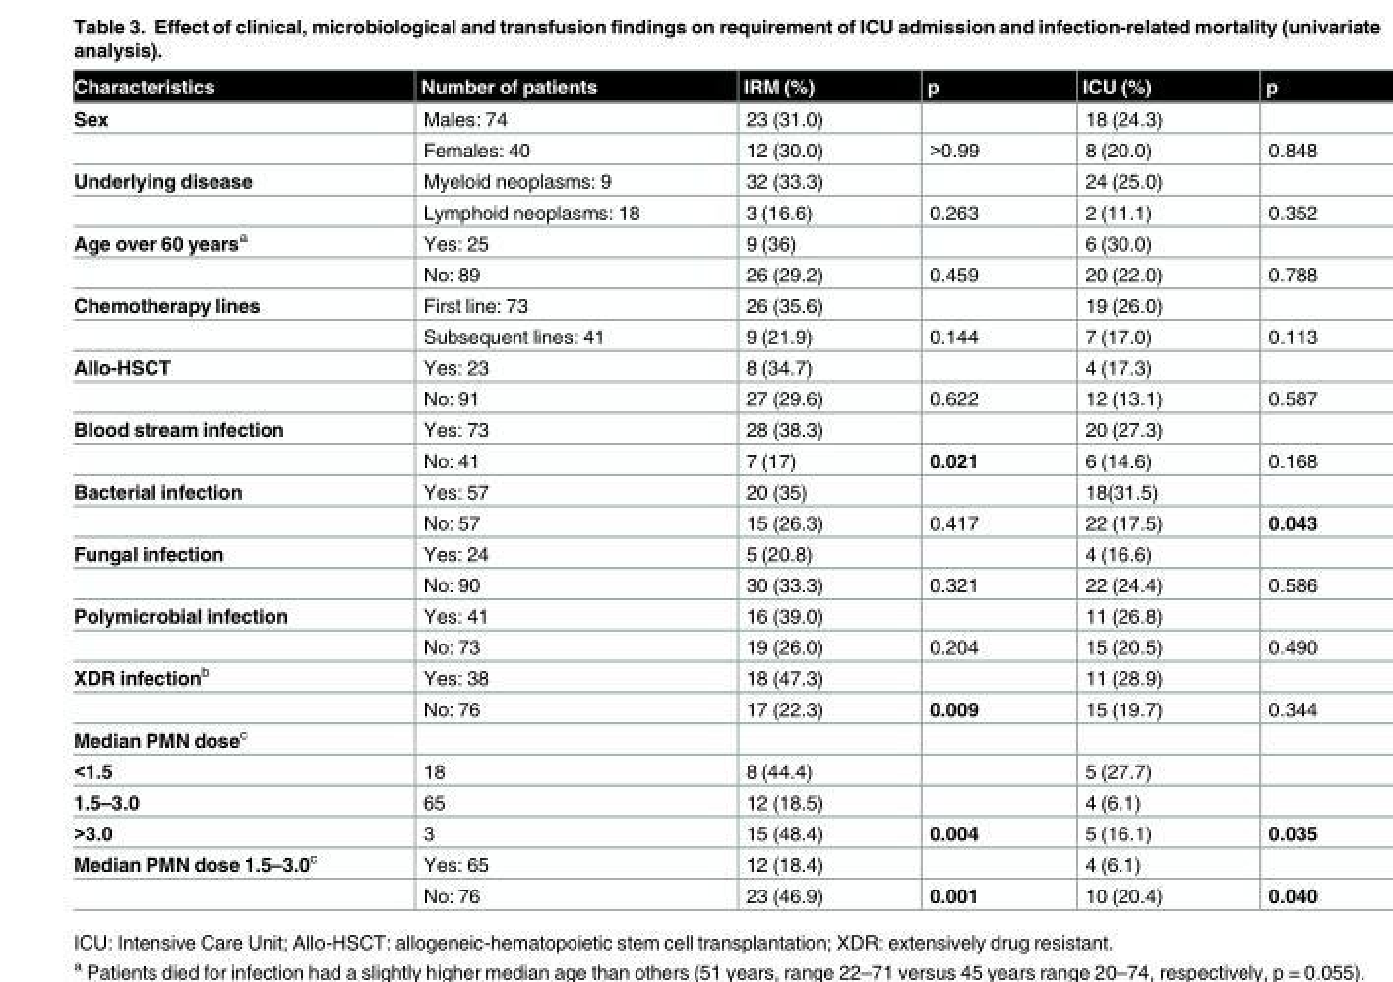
<table><thead><tr><td>Characteristics</td><td>Number of patients</td><td>IRM (%)</td><td>p</td><td>ICU (%)</td><td>p</td></tr></thead><tbody><tr><td rowspan="2">Sex</td><td>Males: 74</td><td>23 (31.0)</td><td></td><td>18 (24.3)</td><td></td></tr><tr><td>Females: 40</td><td>12 (30.0)</td><td>&gt;0.99</td><td>8 (20.0)</td><td>0.848</td></tr><tr><td rowspan="2">Underlying disease</td><td>Myeloid neoplasms: 9</td><td>32 (33.3)</td><td></td><td>24 (25.0)</td><td></td></tr><tr><td>Lymphoid neoplasms: 18</td><td>3 (16.6)</td><td>0.263</td><td>2 (11.1)</td><td>0.352</td></tr><tr><td rowspan="2">Age over 60 years<sup>a</sup></td><td>Yes: 25</td><td>9 (36)</td><td></td><td>6 (30.0)</td><td></td></tr><tr><td>No: 89</td><td>26 (29.2)</td><td>0.459</td><td>20 (22.0)</td><td>0.788</td></tr><tr><td rowspan="2">Chemotherapy lines</td><td>First line: 73</td><td>26 (35.6)</td><td></td><td>19 (26.0)</td><td></td></tr><tr><td>Subsequent lines: 41</td><td>9 (21.9)</td><td>0.144</td><td>7 (17.0)</td><td>0.113</td></tr><tr><td rowspan="2">Allo-HSCT</td><td>Yes: 23</td><td>8 (34.7)</td><td></td><td>4 (17.3)</td><td></td></tr><tr><td>No: 91</td><td>27 (29.6)</td><td>0.622</td><td>12 (13.1)</td><td>0.587</td></tr><tr><td rowspan="2">Blood stream infection</td><td>Yes: 73</td><td>28 (38.3)</td><td></td><td>20 (27.3)</td><td></td></tr><tr><td>No: 41</td><td>7 (17)</td><td>0.021</td><td>6 (14.6)</td><td>0.168</td></tr><tr><td rowspan="2">Bacterial infection</td><td>Yes: 57</td><td>20 (35)</td><td></td><td>18(31.5)</td><td></td></tr><tr><td>No: 57</td><td>15 (26.3)</td><td>0.417</td><td>22 (17.5)</td><td>0.043</td></tr><tr><td rowspan="2">Fungal infection</td><td>Yes: 24</td><td>5 (20.8)</td><td></td><td>4 (16.6)</td><td></td></tr><tr><td>No: 90</td><td>30 (33.3)</td><td>0.321</td><td>22 (24.4)</td><td>0.586</td></tr><tr><td rowspan="2">Polymicrobial infection</td><td>Yes: 41</td><td>16 (39.0)</td><td></td><td>11 (26.8)</td><td></td></tr><tr><td>No: 73</td><td>19 (26.0)</td><td>0.204</td><td>15 (20.5)</td><td>0.490</td></tr><tr><td rowspan="2">XDR infection<sup>b</sup></td><td>Yes: 38</td><td>18 (47.3)</td><td></td><td>11 (28.9)</td><td></td></tr><tr><td>No: 76</td><td>17 (22.3)</td><td>0.009</td><td>15 (19.7)</td><td>0.344</td></tr><tr><td colspan="6">Median PMN dose<sup>c</sup></td></tr><tr><td>&lt;1.5</td><td>18</td><td>8 (44.4)</td><td></td><td>5 (27.7)</td><td></td></tr><tr><td>1.5–3.0</td><td>65</td><td>12 (18.5)</td><td></td><td>4 (6.1)</td><td></td></tr><tr><td>&gt;3.0</td><td>3</td><td>15 (48.4)</td><td>0.004</td><td>5 (16.1)</td><td>0.035</td></tr><tr><td rowspan="2">Median PMN dose 1.5–3.0<sup>c</sup></td><td>Yes: 65</td><td>12 (18.4)</td><td></td><td>4 (6.1)</td><td></td></tr><tr><td>No: 76</td><td>23 (46.9)</td><td>0.001</td><td>10 (20.4)</td><td>0.040</td></tr></tbody></table>